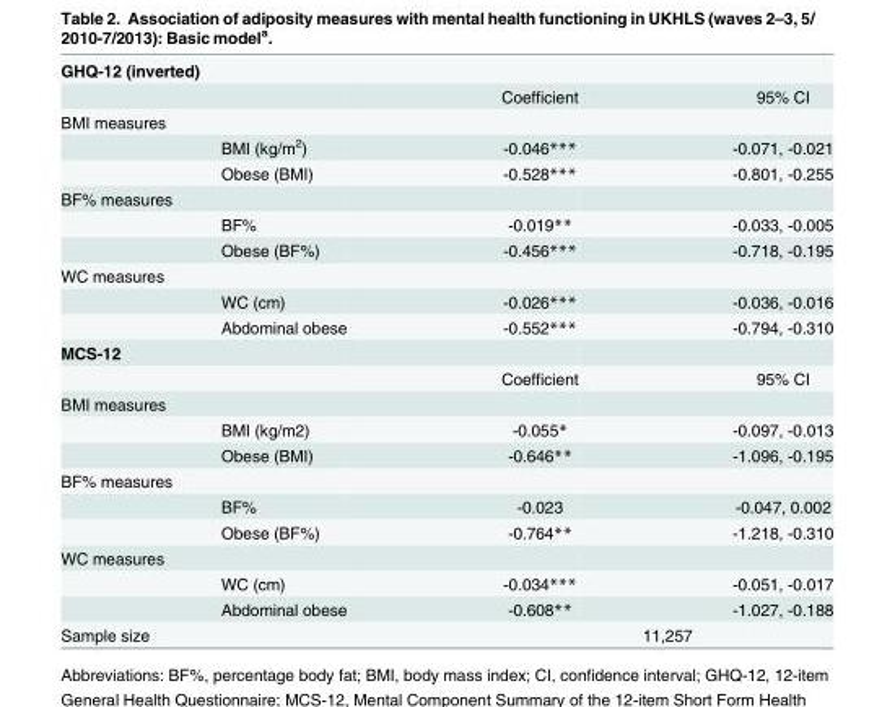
<table><tbody><tr><td colspan="3">GHQ-12 (inverted)</td></tr><tr><td></td><td>Coefficient</td><td>95% CI</td></tr><tr><td colspan="3">ΒΜI measures</td></tr><tr><td>BMI (kg/m2)</td><td>-0.046***</td><td>-0.071, -0.021</td></tr><tr><td>Obese (BMI)</td><td>-0.528***</td><td>-0.801, -0.255</td></tr><tr><td colspan="3">BF% measures</td></tr><tr><td>BF%</td><td>-0.019**</td><td>-0.033, -0.005</td></tr><tr><td>Obese (BF%)</td><td>-0.456***</td><td>-0.718, -0.195</td></tr><tr><td colspan="3">WC measures</td></tr><tr><td>WC (cm)</td><td>-0.026***</td><td>-0.036, -0.016</td></tr><tr><td>Abdominal obese</td><td>-0.552***</td><td>-0.794, -0.310</td></tr><tr><td colspan="3">MCS-12</td></tr><tr><td></td><td>Coefficient</td><td>95% CI</td></tr><tr><td colspan="3">ΒΜI measures</td></tr><tr><td>BMI (kg/m2)</td><td>-0.055*</td><td>-0.097, -0.013</td></tr><tr><td>Obese (BMI)</td><td>-0.646**</td><td>-1.096, -0.195</td></tr><tr><td colspan="3">BF% measures</td></tr><tr><td>BF%</td><td>-0.023</td><td>-0.047, 0.002</td></tr><tr><td>Obese (BF%)</td><td>-0.764**</td><td>-1.218, -0.310</td></tr><tr><td colspan="3">WC measures</td></tr><tr><td>WC (cm)</td><td>-0.034***</td><td>-0.051, -0.017</td></tr><tr><td>Abdominal obese</td><td>-0.608**</td><td>-1.027, -0.188</td></tr><tr><td>Sample size</td><td colspan="2">11,257</td></tr></tbody></table>